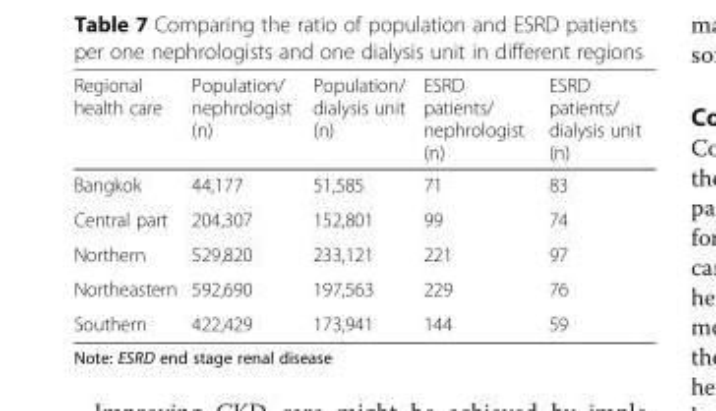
<table><thead><tr><td>Regional health care</td><td>Population/ nephrologist (n)</td><td>Population/ dialysis unit (n)</td><td>ESRD patients/ nephrologist (n)</td><td>ESRD patients/ dialysis unit (n)</td></tr></thead><tbody><tr><td>Bangkok</td><td>44,177</td><td>51,585</td><td>71</td><td>83</td></tr><tr><td>Central part</td><td>204,307</td><td>152,801</td><td>99</td><td>74</td></tr><tr><td>Northern</td><td>529,820</td><td>233,121</td><td>221</td><td>97</td></tr><tr><td>Northeastern</td><td>592,690</td><td>197,563</td><td>229</td><td>76</td></tr><tr><td>Southern</td><td>422,429</td><td>173,941</td><td>144</td><td>59</td></tr></tbody></table>